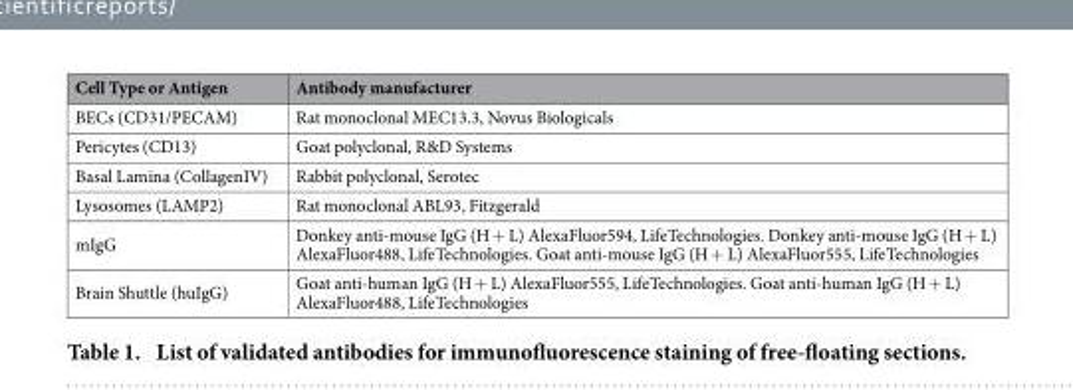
<table><thead><tr><td>Cell Type or Antigen</td><td>Antibody manufacturer</td></tr></thead><tbody><tr><td>BECs (CD31/PECAM)</td><td>Rat monoclonal MEC13.3, Novus Biologicals</td></tr><tr><td>Pericytes (CD13)</td><td>Goat polyclonal, R&amp;D Systems</td></tr><tr><td>Basal Lamina (CollagenIV)</td><td>Rabbit polyclonal, Serotec</td></tr><tr><td>Lysosomes (LAMP2)</td><td>Rat monoclonal ABL93, Fitzgerald</td></tr><tr><td>mIgG</td><td>Donkey anti-mouse IgG (H + L) AlexaFluor594, LifeTechnologies. Donkey anti-mouse IgG (H + L) AlexaFluor488, LifeTechnologies. Goat anti-mouse IgG (H + L) AlexaFluor555, LifeTechnologies</td></tr><tr><td>Brain Shuttle (huIgG)</td><td>Goat anti-human IgG (H + L) AlexaFluor555, LifeTechnologies. Goat anti-human IgG (H + L) AlexaFluor488, LifeTechnologies</td></tr></tbody></table>